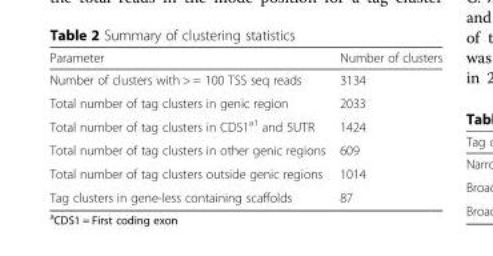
<table><thead><tr><td>Parameter</td><td>Number of clusters</td></tr></thead><tbody><tr><td>Number of clusters with &gt; = 100 TSS seq reads</td><td>3134</td></tr><tr><td>Total number of tag clusters in genic region</td><td>2033</td></tr><tr><td>Total number of tag clusters in CDS1<sup>a1</sup> and 5UTR</td><td>1424</td></tr><tr><td>Total number of tag clusters in other genic regions</td><td>609</td></tr><tr><td>Total number of tag clusters outside genic regions</td><td>1014</td></tr><tr><td>Tag clusters in gene-less containing scaffolds</td><td>87</td></tr></tbody></table>